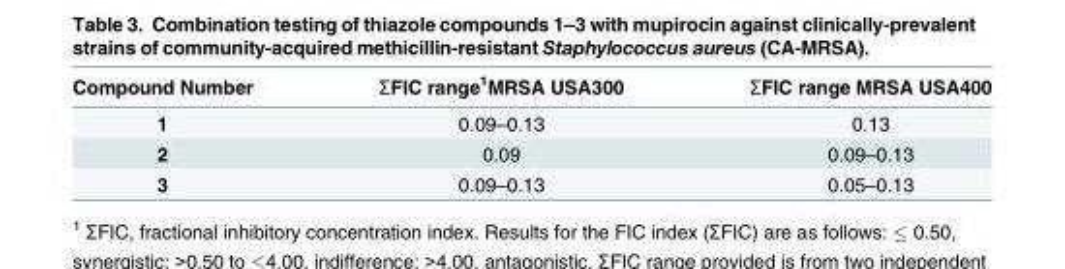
<table><thead><tr><td>Compound Number</td><td>ƩFIC range<sup>1</sup>MRSA USA300</td><td>ƩFIC range MRSA USA400</td></tr></thead><tbody><tr><td>1</td><td>0.09–0.13</td><td>0.13</td></tr><tr><td>2</td><td>0.09</td><td>0.09–0.13</td></tr><tr><td>3</td><td>0.09–0.13</td><td>0.05–0.13</td></tr></tbody></table>